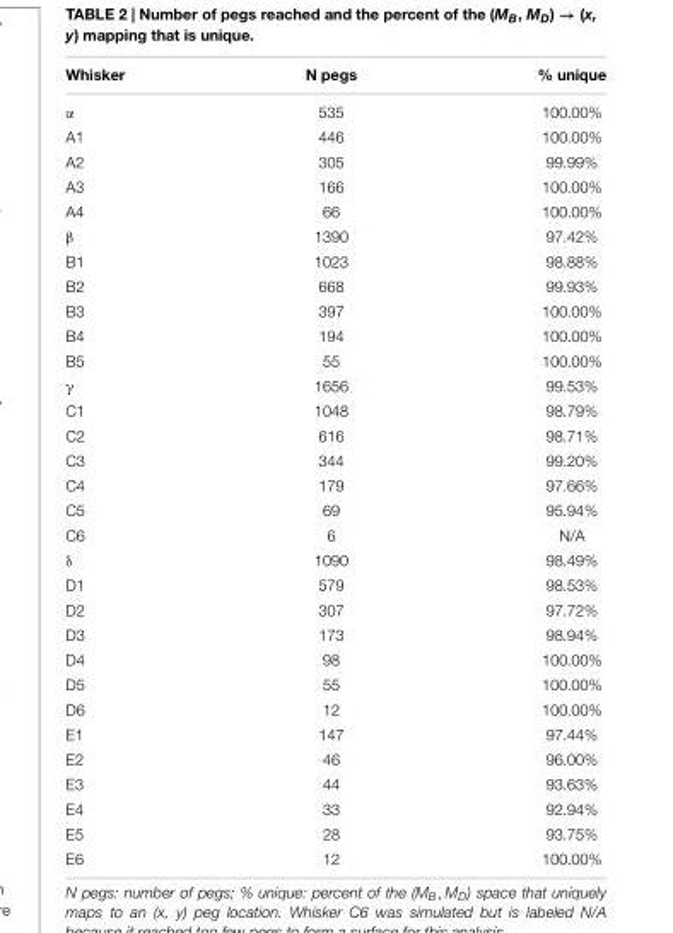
<table><thead><tr><td>Whisker</td><td>N pegs</td><td>% unique</td></tr></thead><tbody><tr><td>α</td><td>535</td><td>100.00%</td></tr><tr><td>A1</td><td>446</td><td>100.00%</td></tr><tr><td>A2</td><td>305</td><td>99.99%</td></tr><tr><td>A3</td><td>166</td><td>100.00%</td></tr><tr><td>A4</td><td>66</td><td>100.00%</td></tr><tr><td>β</td><td>1390</td><td>97.42%</td></tr><tr><td>B1</td><td>1023</td><td>98.88%</td></tr><tr><td>B2</td><td>668</td><td>99.93%</td></tr><tr><td>B3</td><td>397</td><td>100.00%</td></tr><tr><td>B4</td><td>194</td><td>100.00%</td></tr><tr><td>B5</td><td>55</td><td>100.00%</td></tr><tr><td>γ</td><td>1656</td><td>99.53%</td></tr><tr><td>C1</td><td>1048</td><td>98.79%</td></tr><tr><td>C2</td><td>616</td><td>98.71%</td></tr><tr><td>C3</td><td>344</td><td>99.20%</td></tr><tr><td>C4</td><td>179</td><td>97.66%</td></tr><tr><td>C5</td><td>69</td><td>95.94%</td></tr><tr><td>C6</td><td>6</td><td>N/A</td></tr><tr><td>δ</td><td>1090</td><td>98.49%</td></tr><tr><td>D1</td><td>579</td><td>98.53%</td></tr><tr><td>D2</td><td>307</td><td>97.72%</td></tr><tr><td>D3</td><td>173</td><td>98.94%</td></tr><tr><td>D4</td><td>98</td><td>100.00%</td></tr><tr><td>D5</td><td>55</td><td>100.00%</td></tr><tr><td>D6</td><td>12</td><td>100.00%</td></tr><tr><td>E1</td><td>147</td><td>97.44%</td></tr><tr><td>E2</td><td>46</td><td>96.00%</td></tr><tr><td>E3</td><td>44</td><td>93.63%</td></tr><tr><td>E4</td><td>33</td><td>92.94%</td></tr><tr><td>E5</td><td>28</td><td>93.75%</td></tr><tr><td>E6</td><td>12</td><td>100.00%</td></tr></tbody></table>